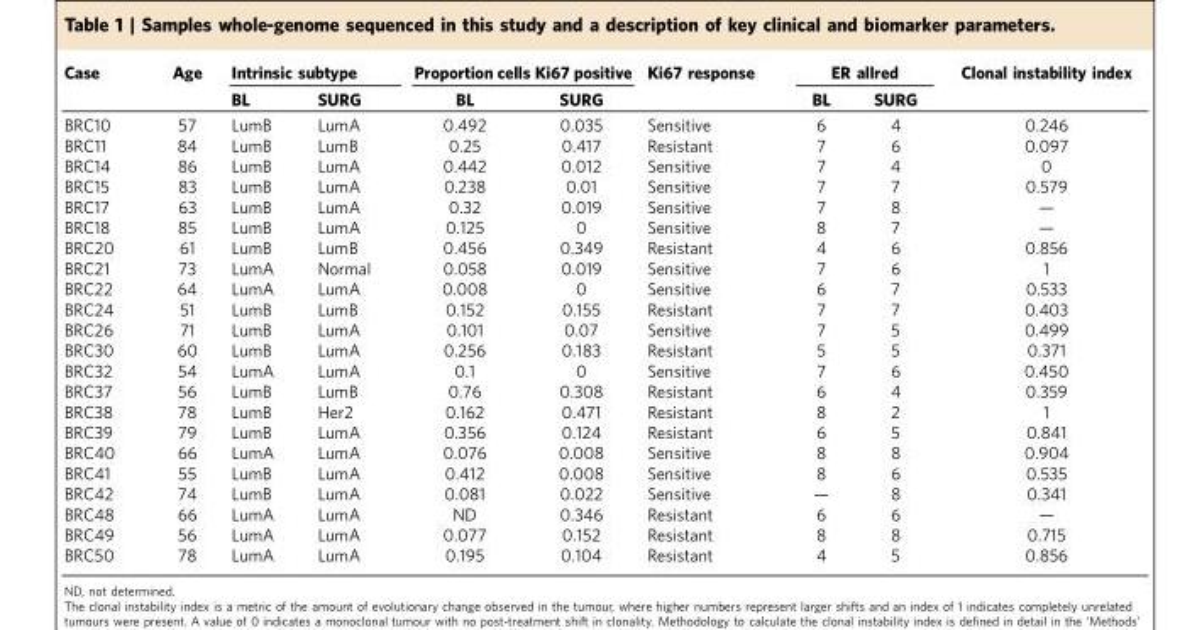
<table><thead><tr><td rowspan="2">Case</td><td rowspan="2">Age</td><td colspan="2">Intrinsic subtype</td><td colspan="2">Proportion cells Ki67 positive</td><td rowspan="2">Ki67 response</td><td colspan="2">ER allred</td><td rowspan="2">Clonal instability index</td></tr><tr><td>BL</td><td>SURG</td><td>BL</td><td>SURG</td><td>BL</td><td>SURG</td></tr></thead><tbody><tr><td>BRC10</td><td>57</td><td>LumB</td><td>LumA</td><td>0.492</td><td>0.035</td><td>Sensitive</td><td>6</td><td>4</td><td>0.246</td></tr><tr><td>BRC11</td><td>84</td><td>LumB</td><td>LumB</td><td>0.25</td><td>0.417</td><td>Resistant</td><td>7</td><td>6</td><td>0.097</td></tr><tr><td>BRC14</td><td>86</td><td>LumB</td><td>LumA</td><td>0.442</td><td>0.012</td><td>Sensitive</td><td>7</td><td>4</td><td>0</td></tr><tr><td>BRC15</td><td>83</td><td>LumB</td><td>LumA</td><td>0.238</td><td>0.01</td><td>Sensitive</td><td>7</td><td>7</td><td>0.579</td></tr><tr><td>BRC17</td><td>63</td><td>LumB</td><td>LumA</td><td>0.32</td><td>0.019</td><td>Sensitive</td><td>7</td><td>8</td><td>—</td></tr><tr><td>BRC18</td><td>85</td><td>LumB</td><td>LumA</td><td>0.125</td><td>0</td><td>Sensitive</td><td>8</td><td>7</td><td>—</td></tr><tr><td>BRC20</td><td>61</td><td>LumB</td><td>LumB</td><td>0.456</td><td>0.349</td><td>Resistant</td><td>4</td><td>6</td><td>0.856</td></tr><tr><td>BRC21</td><td>73</td><td>LumA</td><td>Normal</td><td>0.058</td><td>0.019</td><td>Sensitive</td><td>7</td><td>6</td><td>1</td></tr><tr><td>BRC22</td><td>64</td><td>LumA</td><td>LumA</td><td>0.008</td><td>0</td><td>Sensitive</td><td>6</td><td>7</td><td>0.533</td></tr><tr><td>BRC24</td><td>51</td><td>LumB</td><td>LumB</td><td>0.152</td><td>0.155</td><td>Resistant</td><td>7</td><td>7</td><td>0.403</td></tr><tr><td>BRC26</td><td>71</td><td>LumB</td><td>LumA</td><td>0.101</td><td>0.07</td><td>Sensitive</td><td>7</td><td>5</td><td>0.499</td></tr><tr><td>BRC30</td><td>60</td><td>LumB</td><td>LumA</td><td>0.256</td><td>0.183</td><td>Resistant</td><td>5</td><td>5</td><td>0.371</td></tr><tr><td>BRC32</td><td>54</td><td>LumA</td><td>LumA</td><td>0.1</td><td>0</td><td>Sensitive</td><td>7</td><td>6</td><td>0.450</td></tr><tr><td>BRC37</td><td>56</td><td>LumB</td><td>LumB</td><td>0.76</td><td>0.308</td><td>Resistant</td><td>6</td><td>4</td><td>0.359</td></tr><tr><td>BRC38</td><td>78</td><td>LumB</td><td>Her2</td><td>0.162</td><td>0.471</td><td>Resistant</td><td>8</td><td>2</td><td>1</td></tr><tr><td>BRC39</td><td>79</td><td>LumB</td><td>LumA</td><td>0.356</td><td>0.124</td><td>Resistant</td><td>6</td><td>5</td><td>0.841</td></tr><tr><td>BRC40</td><td>66</td><td>LumA</td><td>LumA</td><td>0.076</td><td>0.008</td><td>Sensitive</td><td>8</td><td>8</td><td>0.904</td></tr><tr><td>BRC41</td><td>55</td><td>LumB</td><td>LumA</td><td>0.412</td><td>0.008</td><td>Sensitive</td><td>8</td><td>6</td><td>0.535</td></tr><tr><td>BRC42</td><td>74</td><td>LumB</td><td>LumA</td><td>0.081</td><td>0.022</td><td>Sensitive</td><td>—</td><td>8</td><td>0.341</td></tr><tr><td>BRC48</td><td>66</td><td>LumA</td><td>LumA</td><td>ND</td><td>0.346</td><td>Resistant</td><td>6</td><td>6</td><td>—</td></tr><tr><td>BRC49</td><td>56</td><td>LumA</td><td>LumA</td><td>0.077</td><td>0.152</td><td>Resistant</td><td>8</td><td>8</td><td>0.715</td></tr><tr><td>BRC50</td><td>78</td><td>LumA</td><td>LumA</td><td>0.195</td><td>0.104</td><td>Resistant</td><td>4</td><td>5</td><td>0.856</td></tr></tbody></table>